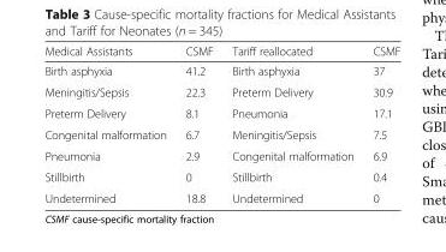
<table><thead><tr><td>Medical Assistants</td><td>CSMF</td><td>Tariff reallocated</td><td>CSMF</td></tr></thead><tbody><tr><td>Birth asphyxia</td><td>41.2</td><td>Birth asphyxia</td><td>37</td></tr><tr><td>Meningitis/Sepsis</td><td>22.3</td><td>Preterm Delivery</td><td>30.9</td></tr><tr><td>Preterm Delivery</td><td>8.1</td><td>Pneumonia</td><td>17.1</td></tr><tr><td>Congenital malformation</td><td>6.7</td><td>Meningitis/Sepsis</td><td>7.5</td></tr><tr><td>Pneumonia</td><td>2.9</td><td>Congenital malformation</td><td>6.9</td></tr><tr><td>Stillbirth</td><td>0</td><td>Stillbirth</td><td>0.4</td></tr><tr><td>Undetermined</td><td>18.8</td><td>Undetermined</td><td>0</td></tr></tbody></table>